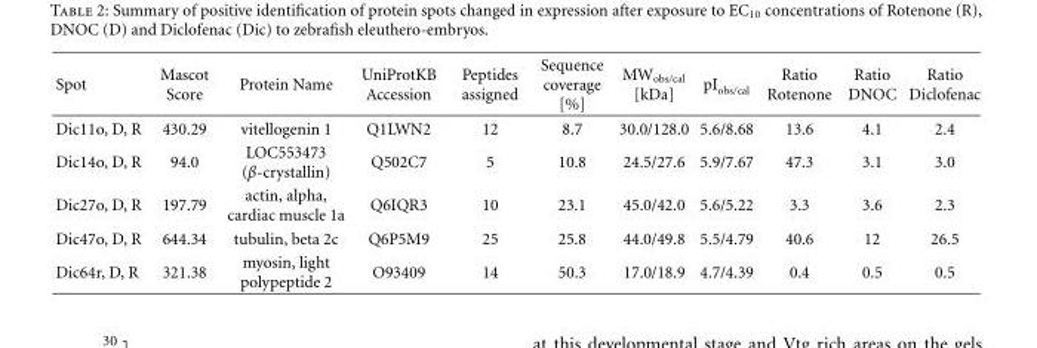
<table><thead><tr><td>Spot</td><td>Mascot Score</td><td>Protein Name</td><td>UniProtKB Accession</td><td>Peptides assigned</td><td>Sequence coverage [%]</td><td>MW<sub>obs/cal</sub> [kDa]</td><td>pI<sub>obs/cal</sub></td><td>Ratio Rotenone</td><td>Ratio DNOC</td><td>Ratio Diclofenac</td></tr></thead><tbody><tr><td>Dic11o, D, R</td><td>430.29</td><td>vitellogenin 1</td><td>Q1LWN2</td><td>12</td><td>8.7</td><td>30.0/128.0</td><td>5.6/8.68</td><td>13.6</td><td>4.1</td><td>2.4</td></tr><tr><td>Dic14o, D, R</td><td>94.0</td><td>LOC553473 (β-crystallin)</td><td>Q502C7</td><td>5</td><td>10.8</td><td>24.5/27.6</td><td>5.9/7.67</td><td>47.3</td><td>3.1</td><td>3.0</td></tr><tr><td>Dic27o, D, R</td><td>197.79</td><td>actin, alpha, cardiac muscle 1a</td><td>Q6IQR3</td><td>10</td><td>23.1</td><td>45.0/42.0</td><td>5.6/5.22</td><td>3.3</td><td>3.6</td><td>2.3</td></tr><tr><td>Dic47o, D, R</td><td>644.34</td><td>tubulin, beta 2c</td><td>Q6P5M9</td><td>25</td><td>25.8</td><td>44.0/49.8</td><td>5.5/4.79</td><td>40.6</td><td>12</td><td>26.5</td></tr><tr><td>Dic64r, D, R</td><td>321.38</td><td>myosin, light polypeptide 2</td><td>O93409</td><td>14</td><td>50.3</td><td>17.0/18.9</td><td>4.7/4.39</td><td>0.4</td><td>0.5</td><td>0.5</td></tr></tbody></table>